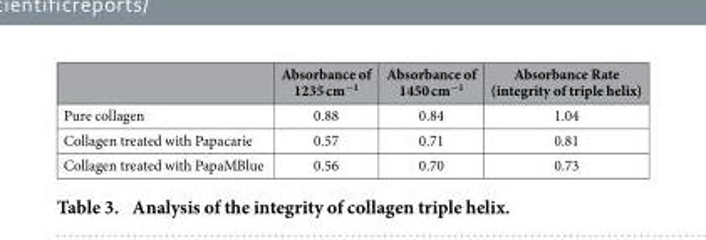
<table><thead><tr><td></td><td>Absorbance of 1235 cm<sup>−1</sup></td><td>Absorbance of 1450 cm<sup>−1</sup></td><td>Absorbance Rate (integrity of triple helix)</td></tr></thead><tbody><tr><td>Pure collagen</td><td>0.88</td><td>0.84</td><td>1.04</td></tr><tr><td>Collagen treated with Papacarie</td><td>0.57</td><td>0.71</td><td>0.81</td></tr><tr><td>Collagen treated with PapaMBlue</td><td>0.56</td><td>0.70</td><td>0.73</td></tr></tbody></table>